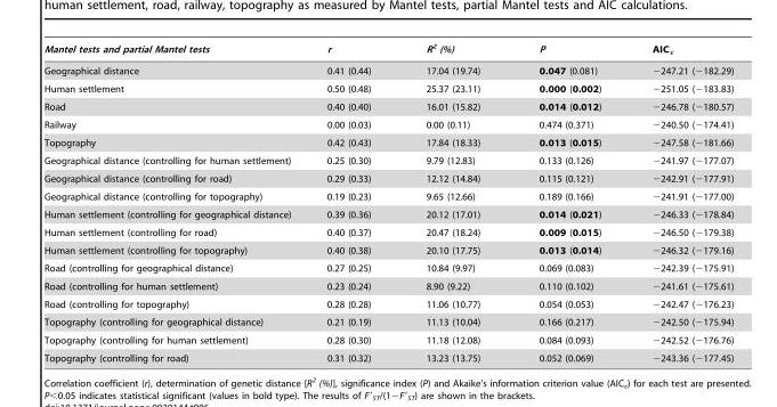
<table><thead><tr><td>Mantel tests and partial Mantel tests</td><td>r</td><td>R<sup>2</sup> (%)</td><td>P</td><td>AIC<sub>c</sub></td></tr></thead><tbody><tr><td>Geographical distance</td><td>0.41 (0.44)</td><td>17.04 (19.74)</td><td>0.047 (0.081)</td><td>−247.21 (−182.29)</td></tr><tr><td>Human settlement</td><td>0.50 (0.48)</td><td>25.37 (23.11)</td><td>0.000 (0.002)</td><td>−251.05 (−183.83)</td></tr><tr><td>Road</td><td>0.40 (0.40)</td><td>16.01 (15.82)</td><td>0.014 (0.012)</td><td>−246.78 (−180.57)</td></tr><tr><td>Railway</td><td>0.00 (0.03)</td><td>0.00 (0.11)</td><td>0.474 (0.371)</td><td>−240.50 (−174.41)</td></tr><tr><td>Topography</td><td>0.42 (0.43)</td><td>17.84 (18.33)</td><td>0.013 (0.015)</td><td>−247.58 (−181.66)</td></tr><tr><td>Geographical distance (controlling for human settlement)</td><td>0.25 (0.30)</td><td>9.79 (12.83)</td><td>0.133 (0.126)</td><td>−241.97 (−177.07)</td></tr><tr><td>Geographical distance (controlling for road)</td><td>0.29 (0.33)</td><td>12.12 (14.84)</td><td>0.115 (0.121)</td><td>−242.91 (−177.91)</td></tr><tr><td>Geographical distance (controlling for topography)</td><td>0.19 (0.23)</td><td>9.65 (12.66)</td><td>0.189 (0.166)</td><td>−241.91 (−177.00)</td></tr><tr><td>Human settlement (controlling for geographical distance)</td><td>0.39 (0.36)</td><td>20.12 (17.01)</td><td>0.014 (0.021)</td><td>−246.33 (−178.84)</td></tr><tr><td>Human settlement (controlling for road)</td><td>0.40 (0.37)</td><td>20.47 (18.24)</td><td>0.009 (0.015)</td><td>−246.50 (−179.38)</td></tr><tr><td>Human settlement (controlling for topography)</td><td>0.40 (0.38)</td><td>20.10 (17.75)</td><td>0.013 (0.014)</td><td>−246.32 (−179.16)</td></tr><tr><td>Road (controlling for geographical distance)</td><td>0.27 (0.25)</td><td>10.84 (9.97)</td><td>0.069 (0.083)</td><td>−242.39 (−175.91)</td></tr><tr><td>Road (controlling for human settlement)</td><td>0.23 (0.24)</td><td>8.90 (9.22)</td><td>0.110 (0.102)</td><td>−241.61 (−175.61)</td></tr><tr><td>Road (controlling for topography)</td><td>0.28 (0.28)</td><td>11.06 (10.77)</td><td>0.054 (0.053)</td><td>−242.47 (−176.23)</td></tr><tr><td>Topography (controlling for geographical distance)</td><td>0.21 (0.19)</td><td>11.13 (10.04)</td><td>0.166 (0.217)</td><td>−242.50 (−175.94)</td></tr><tr><td>Topography (controlling for human settlement)</td><td>0.28 (0.30)</td><td>11.18 (12.08)</td><td>0.084 (0.093)</td><td>−242.52 (−176.76)</td></tr><tr><td>Topography (controlling for road)</td><td>0.31 (0.32)</td><td>13.23 (13.75)</td><td>0.052 (0.069)</td><td>−243.36 (−177.45)</td></tr></tbody></table>